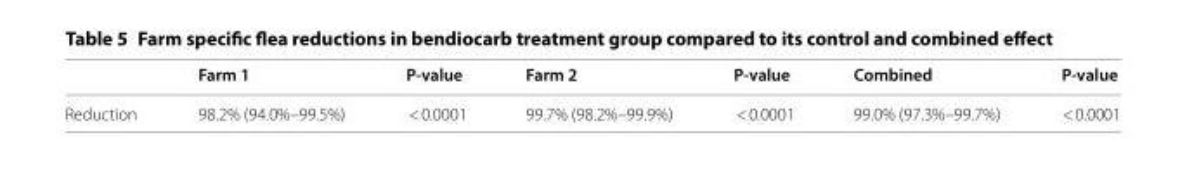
<table><thead><tr><td></td><td>Farm 1</td><td>P-value</td><td>Farm 2</td><td>P-value</td><td>Combined</td><td>P-value</td></tr></thead><tbody><tr><td>Reduction</td><td>98.2% (94.0%–99.5%)</td><td>&lt; 0.0001</td><td>99.7% (98.2%–99.9%)</td><td>&lt; 0.0001</td><td>99.0% (97.3%–99.7%)</td><td>&lt; 0.0001</td></tr></tbody></table>